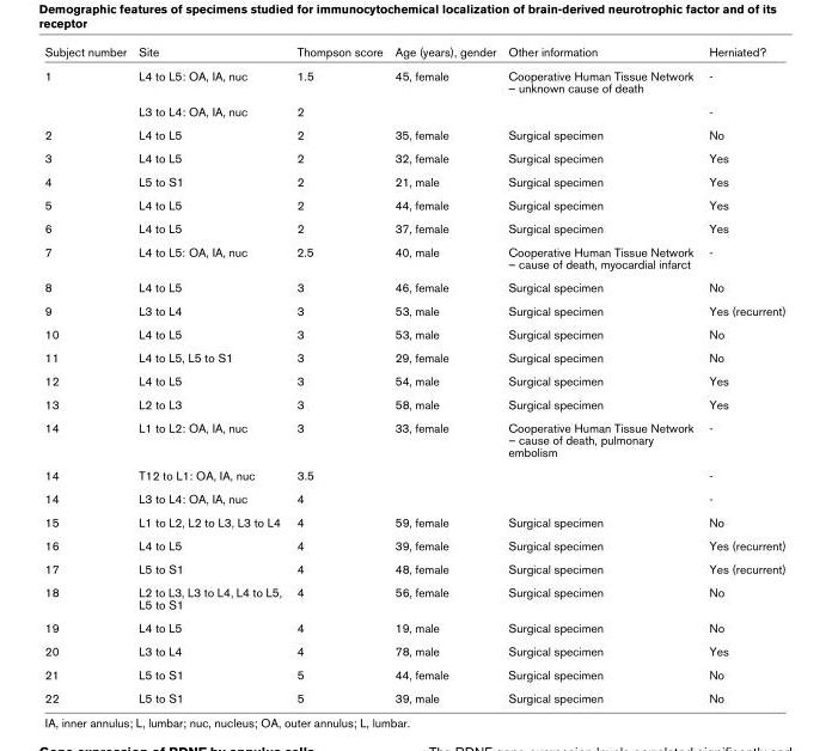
<table><thead><tr><td>Subject number</td><td>Site</td><td>Thompson score</td><td>Age (years), gender</td><td>Other information</td><td>Herniated?</td></tr></thead><tbody><tr><td rowspan="2">1</td><td>L4 to L5: OA, IA, nuc</td><td>1.5</td><td>45, female</td><td>Cooperative Human Tissue Network – unknown cause of death</td><td>-</td></tr><tr><td>L3 to L4: OA, IA, nuc</td><td>2</td><td></td><td></td><td>-</td></tr><tr><td>2</td><td>L4 to L5</td><td>2</td><td>35, female</td><td>Surgical specimen</td><td>No</td></tr><tr><td>3</td><td>L4 to L5</td><td>2</td><td>32, female</td><td>Surgical specimen</td><td>Yes</td></tr><tr><td>4</td><td>L5 to S1</td><td>2</td><td>21, male</td><td>Surgical specimen</td><td>Yes</td></tr><tr><td>5</td><td>L4 to L5</td><td>2</td><td>44, female</td><td>Surgical specimen</td><td>Yes</td></tr><tr><td>6</td><td>L4 to L5</td><td>2</td><td>37, female</td><td>Surgical specimen</td><td>Yes</td></tr><tr><td>7</td><td>L4 to L5: OA, IA, nuc</td><td>2.5</td><td>40, male</td><td>Cooperative Human Tissue Network – cause of death, myocardial infarct</td><td>-</td></tr><tr><td>8</td><td>L4 to L5</td><td>3</td><td>46, female</td><td>Surgical specimen</td><td>No</td></tr><tr><td>9</td><td>L3 to L4</td><td>3</td><td>53, male</td><td>Surgical specimen</td><td>Yes (recurrent)</td></tr><tr><td>10</td><td>L4 to L5</td><td>3</td><td>53, male</td><td>Surgical specimen</td><td>No</td></tr><tr><td>11</td><td>L4 to L5, L5 to S1</td><td>3</td><td>29, female</td><td>Surgical specimen</td><td>No</td></tr><tr><td>12</td><td>L4 to L5</td><td>3</td><td>54, male</td><td>Surgical specimen</td><td>Yes</td></tr><tr><td>13</td><td>L2 to L3</td><td>3</td><td>58, male</td><td>Surgical specimen</td><td>Yes</td></tr><tr><td>14</td><td>L1 to L2: OA, IA, nuc</td><td>3</td><td>33, female</td><td>Cooperative Human Tissue Network – cause of death, pulmonary embolism</td><td>-</td></tr><tr><td>14</td><td>T12 to L1: OA, IA, nuc</td><td>3.5</td><td></td><td></td><td>-</td></tr><tr><td>14</td><td>L3 to L4: OA, IA, nuc</td><td>4</td><td></td><td></td><td>-</td></tr><tr><td>15</td><td>L1 to L2, L2 to L3, L3 to L4</td><td>4</td><td>59, female</td><td>Surgical specimen</td><td>No</td></tr><tr><td>16</td><td>L4 to L5</td><td>4</td><td>39, female</td><td>Surgical specimen</td><td>Yes (recurrent)</td></tr><tr><td>17</td><td>L5 to S1</td><td>4</td><td>48, female</td><td>Surgical specimen</td><td>Yes (recurrent)</td></tr><tr><td>18</td><td>L2 to L3, L3 to L4, L4 to L5, L5 to S1</td><td>4</td><td>56, female</td><td>Surgical specimen</td><td>No</td></tr><tr><td>19</td><td>L4 to L5</td><td>4</td><td>19, male</td><td>Surgical specimen</td><td>No</td></tr><tr><td>20</td><td>L3 to L4</td><td>4</td><td>78, male</td><td>Surgical specimen</td><td>Yes</td></tr><tr><td>21</td><td>L5 to S1</td><td>5</td><td>44, female</td><td>Surgical specimen</td><td>No</td></tr><tr><td>22</td><td>L5 to S1</td><td>5</td><td>39, male</td><td>Surgical specimen</td><td>No</td></tr></tbody></table>